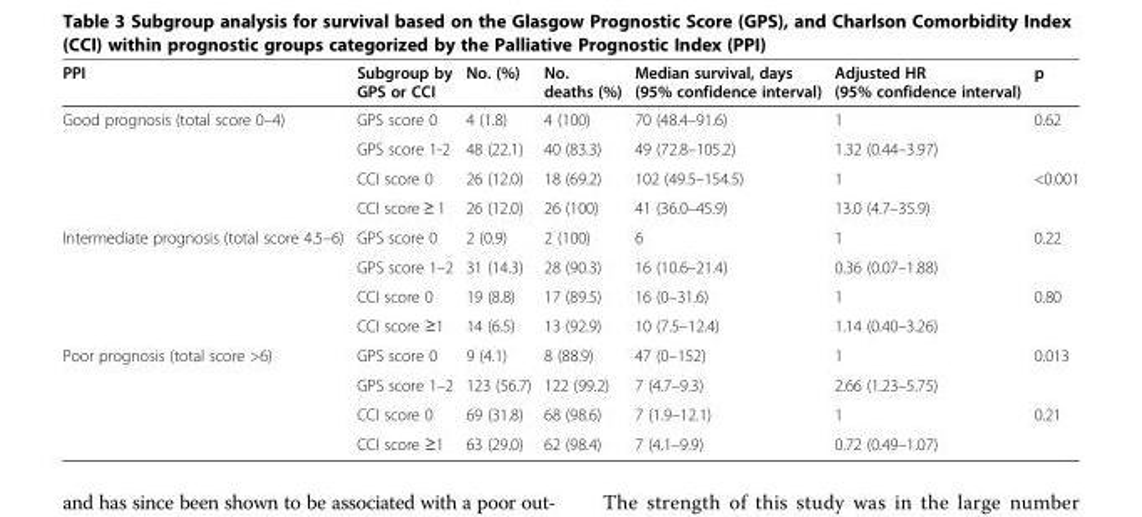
<table><thead><tr><td>PPI</td><td>Subgroup by GPS or CCI</td><td>No. (%)</td><td>No. deaths (%)</td><td>Median survival, days (95% confidence interval)</td><td>Adjusted HR (95% confidence interval)</td><td>p</td></tr></thead><tbody><tr><td rowspan="4">Good prognosis (total score 0–4)</td><td>GPS score 0</td><td>4 (1.8)</td><td>4 (100)</td><td>70 (48.4–91.6)</td><td>1</td><td>0.62</td></tr><tr><td>GPS score 1-2</td><td>48 (22.1)</td><td>40 (83.3)</td><td>49 (72.8–105.2)</td><td>1.32 (0.44–3.97)</td><td></td></tr><tr><td>CCI score 0</td><td>26 (12.0)</td><td>18 (69.2)</td><td>102 (49.5–154.5)</td><td>1</td><td>&lt;0.001</td></tr><tr><td>CCI score ≥ 1</td><td>26 (12.0)</td><td>26 (100)</td><td>41 (36.0–45.9)</td><td>13.0 (4.7–35.9)</td><td></td></tr><tr><td rowspan="4">Intermediate prognosis (total score 4.5–6)</td><td>GPS score 0</td><td>2 (0.9)</td><td>2 (100)</td><td>6</td><td>1</td><td>0.22</td></tr><tr><td>GPS score 1–2</td><td>31 (14.3)</td><td>28 (90.3)</td><td>16 (10.6–21.4)</td><td>0.36 (0.07–1.88)</td><td></td></tr><tr><td>CCI score 0</td><td>19 (8.8)</td><td>17 (89.5)</td><td>16 (0–31.6)</td><td>1</td><td>0.80</td></tr><tr><td>CCI score ≥1</td><td>14 (6.5)</td><td>13 (92.9)</td><td>10 (7.5–12.4)</td><td>1.14 (0.40–3.26)</td><td></td></tr><tr><td rowspan="4">Poor prognosis (total score &gt;6)</td><td>GPS score 0</td><td>9 (4.1)</td><td>8 (88.9)</td><td>47 (0–152)</td><td>1</td><td>0.013</td></tr><tr><td>GPS score 1–2</td><td>123 (56.7)</td><td>122 (99.2)</td><td>7 (4.7–9.3)</td><td>2.66 (1.23–5.75)</td><td></td></tr><tr><td>CCI score 0</td><td>69 (31.8)</td><td>68 (98.6)</td><td>7 (1.9–12.1)</td><td>1</td><td>0.21</td></tr><tr><td>CCI score ≥1</td><td>63 (29.0)</td><td>62 (98.4)</td><td>7 (4.1–9.9)</td><td>0.72 (0.49–1.07)</td><td></td></tr></tbody></table>